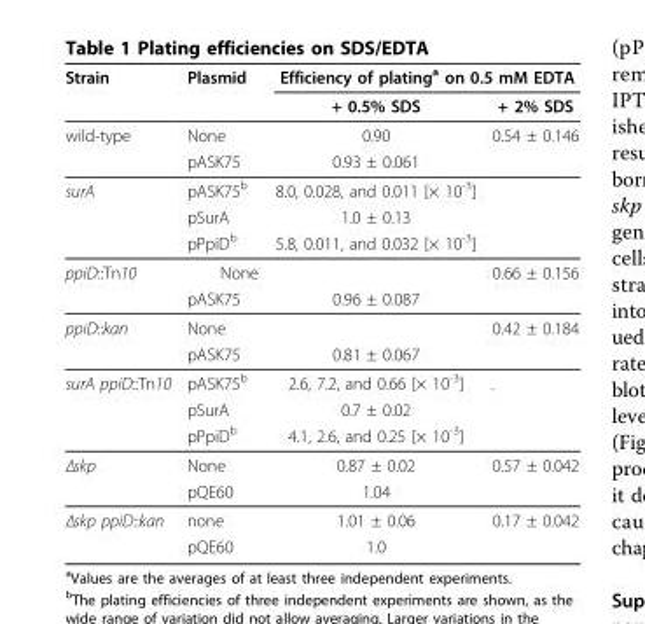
<table><thead><tr><td rowspan="2">Strain</td><td rowspan="2">Plasmid</td><td colspan="2">Efficiency of plating<sup>a</sup> on 0.5 mM EDTA</td></tr><tr><td>+ 0.5% SDS</td><td>+ 2% SDS</td></tr></thead><tbody><tr><td rowspan="2">wild-type</td><td>None</td><td>0.90</td><td>0.54 ± 0.146</td></tr><tr><td>pASK75</td><td>0.93 ± 0.061</td><td></td></tr><tr><td rowspan="3">surA</td><td>pASK75<sup>b</sup></td><td>8.0, 0.028, and 0.011 [× 10<sup>-3</sup>]</td><td></td></tr><tr><td>pSurA</td><td>1.0 ± 0.13</td><td></td></tr><tr><td>pPpiD<sup>b</sup></td><td>5.8, 0.011, and 0.032 [× 10<sup>-3</sup>]</td><td></td></tr><tr><td rowspan="2">ppiD::Tn10</td><td>None</td><td></td><td>0.66 ± 0.156</td></tr><tr><td>pASK75</td><td>0.96 ± 0.087</td><td></td></tr><tr><td rowspan="2">ppiD::kan</td><td>None</td><td></td><td>0.42 ± 0.184</td></tr><tr><td>pASK75</td><td>0.81 ± 0.067</td><td></td></tr><tr><td rowspan="3">surA ppiD::Tn10</td><td>pASK75<sup>b</sup></td><td>2.6, 7.2, and 0.66 [× 10<sup>-3</sup>]</td><td>.</td></tr><tr><td>pSurA</td><td>0.7 ± 0.02</td><td></td></tr><tr><td>pPpiD<sup>b</sup></td><td>4.1, 2.6, and 0.25 [× 10<sup>-3</sup>]</td><td></td></tr><tr><td rowspan="2">Δskp</td><td>None</td><td>0.87 ± 0.02</td><td>0.57 ± 0.042</td></tr><tr><td>pQE60</td><td>1.04</td><td></td></tr><tr><td rowspan="2">Δskp ppiD::kan</td><td>none</td><td>1.01 ± 0.06</td><td>0.17 ± 0.042</td></tr><tr><td>pQE60</td><td>1.0</td><td></td></tr></tbody></table>